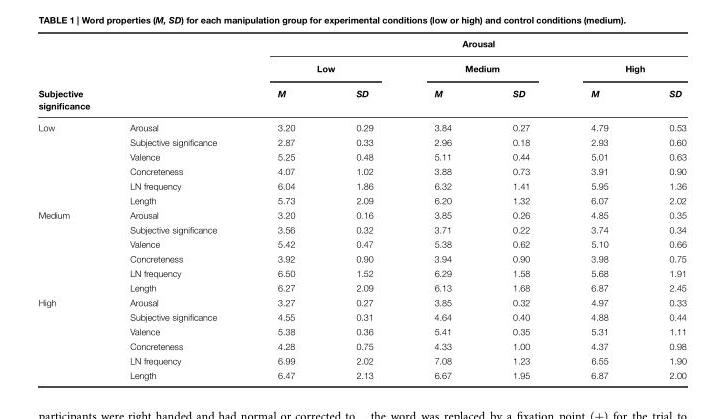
<table><thead><tr><td rowspan="3">Subjective significance</td><td rowspan="3"></td><td colspan="6">Arousal</td></tr><tr><td colspan="2">Low</td><td colspan="2">Medium</td><td colspan="2">High</td></tr><tr><td>M</td><td>SD</td><td>M</td><td>SD</td><td>M</td><td>SD</td></tr></thead><tbody><tr><td rowspan="6">Low</td><td>Arousal</td><td>3.20</td><td>0.29</td><td>3.84</td><td>0.27</td><td>4.79</td><td>0.53</td></tr><tr><td>Subjective significance</td><td>2.87</td><td>0.33</td><td>2.96</td><td>0.18</td><td>2.93</td><td>0.60</td></tr><tr><td>Valence</td><td>5.25</td><td>0.48</td><td>5.11</td><td>0.44</td><td>5.01</td><td>0.63</td></tr><tr><td>Concreteness</td><td>4.07</td><td>1.02</td><td>3.88</td><td>0.73</td><td>3.91</td><td>0.90</td></tr><tr><td>LN frequency</td><td>6.04</td><td>1.86</td><td>6.32</td><td>1.41</td><td>5.95</td><td>1.36</td></tr><tr><td>Length</td><td>5.73</td><td>2.09</td><td>6.20</td><td>1.32</td><td>6.07</td><td>2.02</td></tr><tr><td rowspan="6">Medium</td><td>Arousal</td><td>3.20</td><td>0.16</td><td>3.85</td><td>0.26</td><td>4.85</td><td>0.35</td></tr><tr><td>Subjective significance</td><td>3.56</td><td>0.32</td><td>3.71</td><td>0.22</td><td>3.74</td><td>0.34</td></tr><tr><td>Valence</td><td>5.42</td><td>0.47</td><td>5.38</td><td>0.62</td><td>5.10</td><td>0.66</td></tr><tr><td>Concreteness</td><td>3.92</td><td>0.90</td><td>3.94</td><td>0.90</td><td>3.98</td><td>0.75</td></tr><tr><td>LN frequency</td><td>6.50</td><td>1.52</td><td>6.29</td><td>1.58</td><td>5.68</td><td>1.91</td></tr><tr><td>Length</td><td>6.27</td><td>2.09</td><td>6.13</td><td>1.68</td><td>6.87</td><td>2.45</td></tr><tr><td rowspan="6">High</td><td>Arousal</td><td>3.27</td><td>0.27</td><td>3.85</td><td>0.32</td><td>4.97</td><td>0.33</td></tr><tr><td>Subjective significance</td><td>4.55</td><td>0.31</td><td>4.64</td><td>0.40</td><td>4.88</td><td>0.44</td></tr><tr><td>Valence</td><td>5.38</td><td>0.36</td><td>5.41</td><td>0.35</td><td>5.31</td><td>1.11</td></tr><tr><td>Concreteness</td><td>4.28</td><td>0.75</td><td>4.33</td><td>1.00</td><td>4.37</td><td>0.98</td></tr><tr><td>LN frequency</td><td>6.99</td><td>2.02</td><td>7.08</td><td>1.23</td><td>6.55</td><td>1.90</td></tr><tr><td>Length</td><td>6.47</td><td>2.13</td><td>6.67</td><td>1.95</td><td>6.87</td><td>2.00</td></tr></tbody></table>